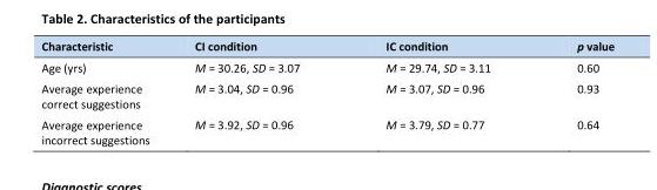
<table><thead><tr><td>Characteristic</td><td>CI condition</td><td>IC condition</td><td>p value</td></tr></thead><tbody><tr><td>Age (yrs)</td><td>M = 30.26, SD = 3.07</td><td>M = 29.74, SD = 3.11</td><td>0.60</td></tr><tr><td>Average experience correct suggestions</td><td>M = 3.04, SD = 0.96</td><td>M = 3.07, SD = 0.96</td><td>0.93</td></tr><tr><td>Average experience incorrect suggestions</td><td>M = 3.92, SD = 0.96</td><td>M = 3.79, SD = 0.77</td><td>0.64</td></tr></tbody></table>